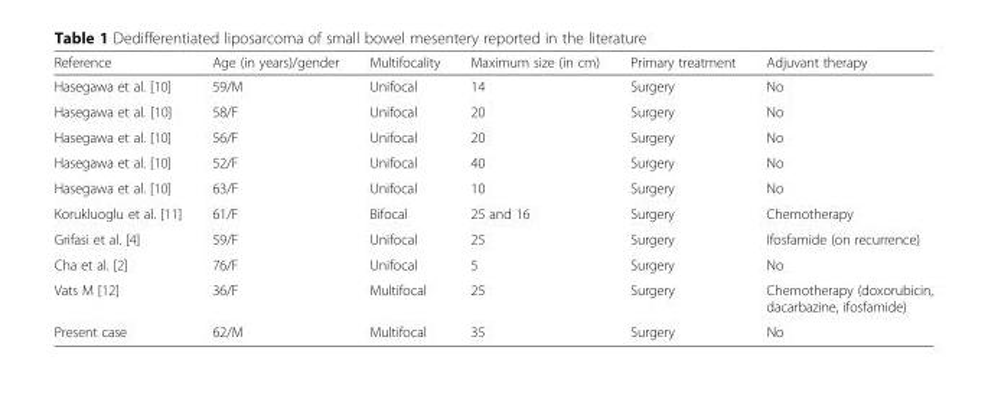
<table><thead><tr><td>Reference</td><td>Age (in years)/gender</td><td>Multifocality</td><td>Maximum size (in cm)</td><td>Primary treatment</td><td>Adjuvant therapy</td></tr></thead><tbody><tr><td>Hasegawa et al. [10]</td><td>59/M</td><td>Unifocal</td><td>14</td><td>Surgery</td><td>No</td></tr><tr><td>Hasegawa et al. [10]</td><td>58/F</td><td>Unifocal</td><td>20</td><td>Surgery</td><td>No</td></tr><tr><td>Hasegawa et al. [10]</td><td>56/F</td><td>Unifocal</td><td>20</td><td>Surgery</td><td>No</td></tr><tr><td>Hasegawa et al. [10]</td><td>52/F</td><td>Unifocal</td><td>40</td><td>Surgery</td><td>No</td></tr><tr><td>Hasegawa et al. [10]</td><td>63/F</td><td>Unifocal</td><td>10</td><td>Surgery</td><td>No</td></tr><tr><td>Korukluoglu et al. [11]</td><td>61/F</td><td>Bifocal</td><td>25 and 16</td><td>Surgery</td><td>Chemotherapy</td></tr><tr><td>Grifasi et al. [4]</td><td>59/F</td><td>Unifocal</td><td>25</td><td>Surgery</td><td>Ifosfamide (on recurrence)</td></tr><tr><td>Cha et al. [2]</td><td>76/F</td><td>Unifocal</td><td>5</td><td>Surgery</td><td>No</td></tr><tr><td>Vats M [12]</td><td>36/F</td><td>Multifocal</td><td>25</td><td>Surgery</td><td>Chemotherapy (doxorubicin, dacarbazine, ifosfamide)</td></tr><tr><td>Present case</td><td>62/M</td><td>Multifocal</td><td>35</td><td>Surgery</td><td>No</td></tr></tbody></table>